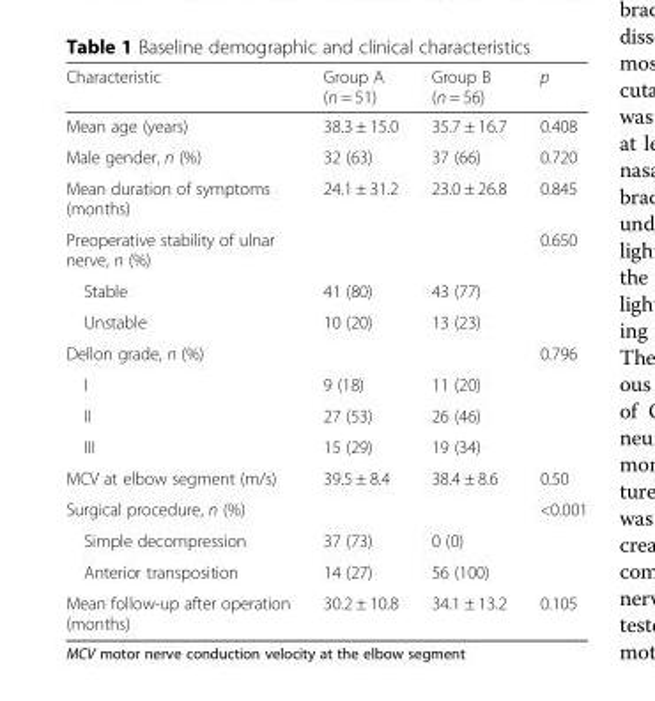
<table><thead><tr><td>Characteristic</td><td>Group A (n = 51)</td><td>Group B (n = 56)</td><td>p</td></tr></thead><tbody><tr><td>Mean age (years)</td><td>38.3 ± 15.0</td><td>35.7 ± 16.7</td><td>0.408</td></tr><tr><td>Male gender, n (%)</td><td>32 (63)</td><td>37 (66)</td><td>0.720</td></tr><tr><td>Mean duration of symptoms (months)</td><td>24.1 ± 31.2</td><td>23.0 ± 26.8</td><td>0.845</td></tr><tr><td>Preoperative stability of ulnar nerve, n (%)</td><td></td><td></td><td>0.650</td></tr><tr><td>Stable</td><td>41 (80)</td><td>43 (77)</td><td></td></tr><tr><td>Unstable</td><td>10 (20)</td><td>13 (23)</td><td></td></tr><tr><td>Dellon grade, n (%)</td><td></td><td></td><td>0.796</td></tr><tr><td>I</td><td>9 (18)</td><td>11 (20)</td><td></td></tr><tr><td>II</td><td>27 (53)</td><td>26 (46)</td><td></td></tr><tr><td>III</td><td>15 (29)</td><td>19 (34)</td><td></td></tr><tr><td>MCV at elbow segment (m/s)</td><td>39.5 ± 8.4</td><td>38.4 ± 8.6</td><td>0.50</td></tr><tr><td>Surgical procedure, n (%)</td><td></td><td></td><td>&lt;0.001</td></tr><tr><td>Simple decompression</td><td>37 (73)</td><td>0 (0)</td><td></td></tr><tr><td>Anterior transposition</td><td>14 (27)</td><td>56 (100)</td><td></td></tr><tr><td>Mean follow-up after operation (months)</td><td>30.2 ± 10.8</td><td>34.1 ± 13.2</td><td>0.105</td></tr></tbody></table>